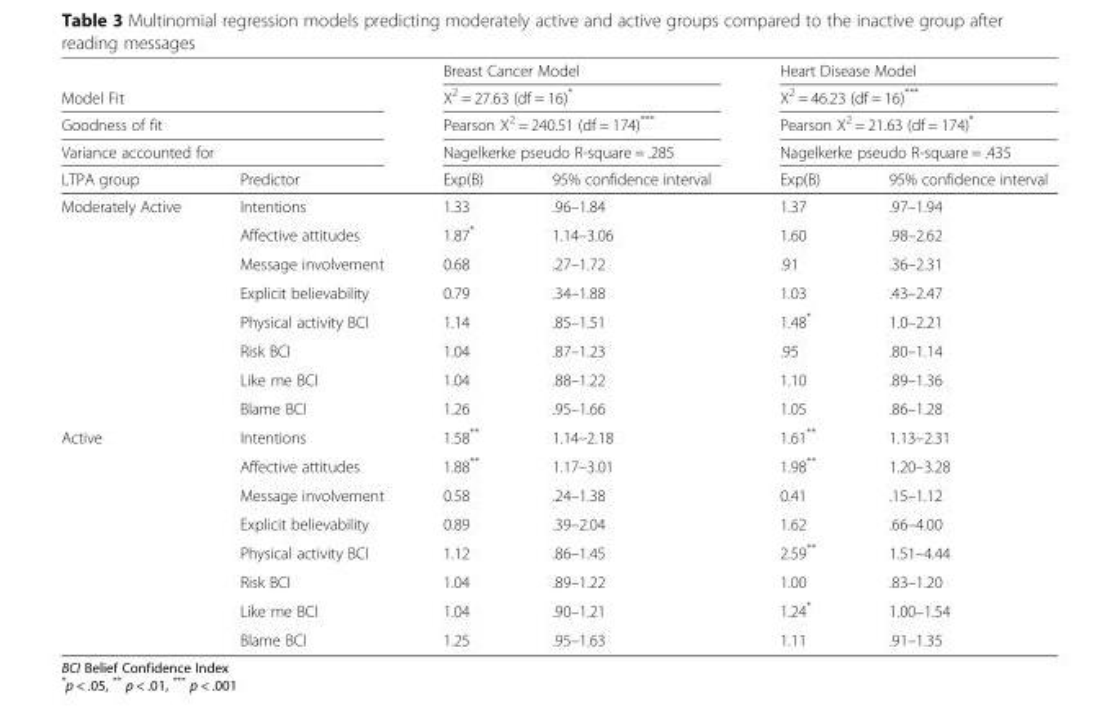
<table><thead><tr><td></td><td></td><td rowspan="4" colspan="2">Breast Cancer Model Χ<sup>2</sup> = 27.63 (df = 16)* Pearson Χ<sup>2</sup> = 240.51 (df = 174)*** Nagelkerke pseudo R-square = .285</td><td rowspan="4" colspan="2">Heart Disease Model Χ<sup>2</sup> = 46.23 (df = 16)*** Pearson Χ<sup>2</sup> = 21.63 (df = 174)* Nagelkerke pseudo R-square = .435</td></tr><tr><td rowspan="3" colspan="2">Model Fit Goodness of fit Variance accounted for</td></tr><tr></tr><tr></tr><tr><td>LTPA group</td><td>Predictor</td><td>Exp(B)</td><td>95% confidence interval</td><td>Exp(B)</td><td>95% confidence interval</td></tr></thead><tbody><tr><td rowspan="8">Moderately Active</td><td>Intentions</td><td>1.33</td><td>.96–1.84</td><td>1.37</td><td>.97–1.94</td></tr><tr><td>Affective attitudes</td><td>1.87*</td><td>1.14–3.06</td><td>1.60</td><td>.98–2.62</td></tr><tr><td>Message involvement</td><td>0.68</td><td>.27–1.72</td><td>.91</td><td>.36–2.31</td></tr><tr><td>Explicit believability</td><td>0.79</td><td>.34–1.88</td><td>1.03</td><td>.43–2.47</td></tr><tr><td>Physical activity BCI</td><td>1.14</td><td>.85–1.51</td><td>1.48*</td><td>1.0–2.21</td></tr><tr><td>Risk BCI</td><td>1.04</td><td>.87–1.23</td><td>.95</td><td>.80–1.14</td></tr><tr><td>Like me BCI</td><td>1.04</td><td>.88–1.22</td><td>1.10</td><td>.89–1.36</td></tr><tr><td>Blame BCI</td><td>1.26</td><td>.95–1.66</td><td>1.05</td><td>.86–1.28</td></tr><tr><td rowspan="8">Active</td><td>Intentions</td><td>1.58**</td><td>1.14–2.18</td><td>1.61**</td><td>1.13–2.31</td></tr><tr><td>Affective attitudes</td><td>1.88**</td><td>1.17–3.01</td><td>1.98**</td><td>1.20–3.28</td></tr><tr><td>Message involvement</td><td>0.58</td><td>.24–1.38</td><td>0.41</td><td>.15–1.12</td></tr><tr><td>Explicit believability</td><td>0.89</td><td>.39–2.04</td><td>1.62</td><td>.66–4.00</td></tr><tr><td>Physical activity BCI</td><td>1.12</td><td>.86–1.45</td><td>2.59**</td><td>1.51–4.44</td></tr><tr><td>Risk BCI</td><td>1.04</td><td>.89–1.22</td><td>1.00</td><td>.83–1.20</td></tr><tr><td>Like me BCI</td><td>1.04</td><td>.90–1.21</td><td>1.24*</td><td>1.00–1.54</td></tr><tr><td>Blame BCI</td><td>1.25</td><td>.95–1.63</td><td>1.11</td><td>.91–1.35</td></tr></tbody></table>